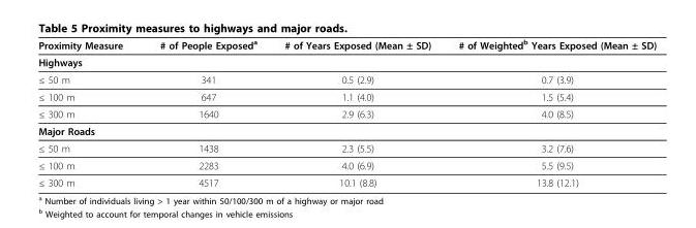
<table><thead><tr><td>Proximity Measure</td><td># of People Exposed<sup>a</sup></td><td># of Years Exposed (Mean ± SD)</td><td># of Weighted<sup>b</sup> Years Exposed (Mean ± SD)</td></tr></thead><tbody><tr><td colspan="4">Highways</td></tr><tr><td>≤ 50 m</td><td>341</td><td>0.5 (2.9)</td><td>0.7 (3.9)</td></tr><tr><td>≤ 100 m</td><td>647</td><td>1.1 (4.0)</td><td>1.5 (5.4)</td></tr><tr><td>≤ 300 m</td><td>1640</td><td>2.9 (6.3)</td><td>4.0 (8.5)</td></tr><tr><td colspan="4">Major Roads</td></tr><tr><td>≤ 50 m</td><td>1438</td><td>2.3 (5.5)</td><td>3.2 (7.6)</td></tr><tr><td>≤ 100 m</td><td>2283</td><td>4.0 (6.9)</td><td>5.5 (9.5)</td></tr><tr><td>≤ 300 m</td><td>4517</td><td>10.1 (8.8)</td><td>13.8 (12.1)</td></tr></tbody></table>